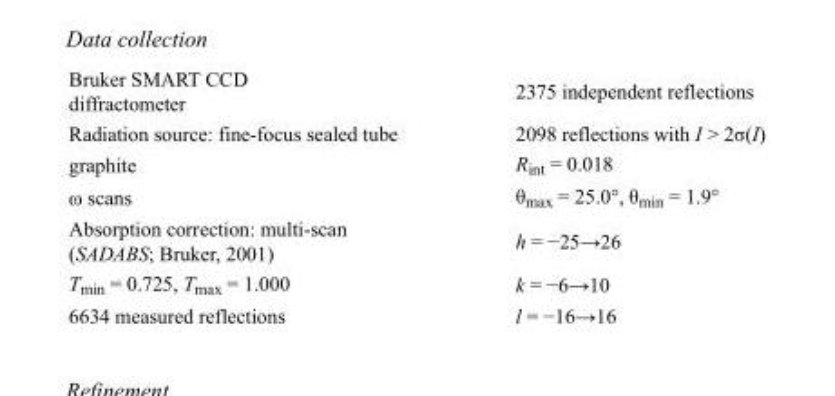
<table><tbody><tr><td>Bruker SMART CCD diffractometer</td><td>2375 independent reflections</td></tr><tr><td>Radiation source: fine-focus sealed tube</td><td>2098 reflections with I &gt; 2σ(I)</td></tr><tr><td>graphite</td><td>R<sub>int</sub> = 0.018</td></tr><tr><td>ω scans</td><td>θ<sub>max</sub> = 25.0°, θ<sub>min</sub> = 1.9°</td></tr><tr><td>Absorption correction: multi-scan (SADABS; Bruker, 2001)</td><td>h = −25→26</td></tr><tr><td>T<sub>min</sub> = 0.725, T<sub>max</sub> = 1.000</td><td>k = −6→10</td></tr><tr><td>6634 measured reflections</td><td>l = −16→16</td></tr></tbody></table>